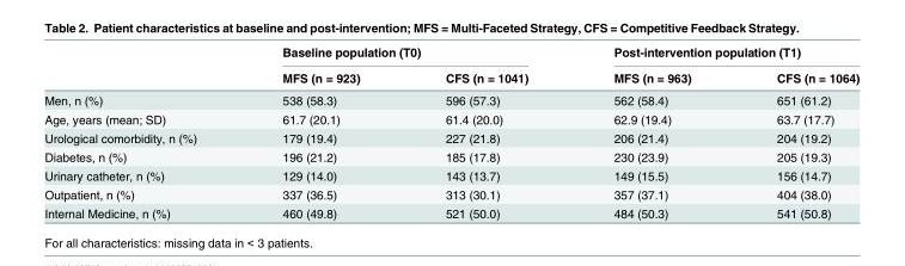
<table><thead><tr><td rowspan="2"></td><td colspan="2">Baseline population (T0)</td><td colspan="2">Post-intervention population (T1)</td></tr><tr><td>MFS (n = 923)</td><td>CFS (n = 1041)</td><td>MFS (n = 963)</td><td>CFS (n = 1064)</td></tr></thead><tbody><tr><td>Men, n (%)</td><td>538 (58.3)</td><td>596 (57.3)</td><td>562 (58.4)</td><td>651 (61.2)</td></tr><tr><td>Age, years (mean; SD)</td><td>61.7 (20.1)</td><td>61.4 (20.0)</td><td>62.9 (19.4)</td><td>63.7 (17.7)</td></tr><tr><td>Urological comorbidity, n (%)</td><td>179 (19.4)</td><td>227 (21.8)</td><td>206 (21.4)</td><td>204 (19.2)</td></tr><tr><td>Diabetes, n (%)</td><td>196 (21.2)</td><td>185 (17.8)</td><td>230 (23.9)</td><td>205 (19.3)</td></tr><tr><td>Urinary catheter, n (%)</td><td>129 (14.0)</td><td>143 (13.7)</td><td>149 (15.5)</td><td>156 (14.7)</td></tr><tr><td>Outpatient, n (%)</td><td>337 (36.5)</td><td>313 (30.1)</td><td>357 (37.1)</td><td>404 (38.0)</td></tr><tr><td>Internal Medicine, n (%)</td><td>460 (49.8)</td><td>521 (50.0)</td><td>484 (50.3)</td><td>541 (50.8)</td></tr></tbody></table>